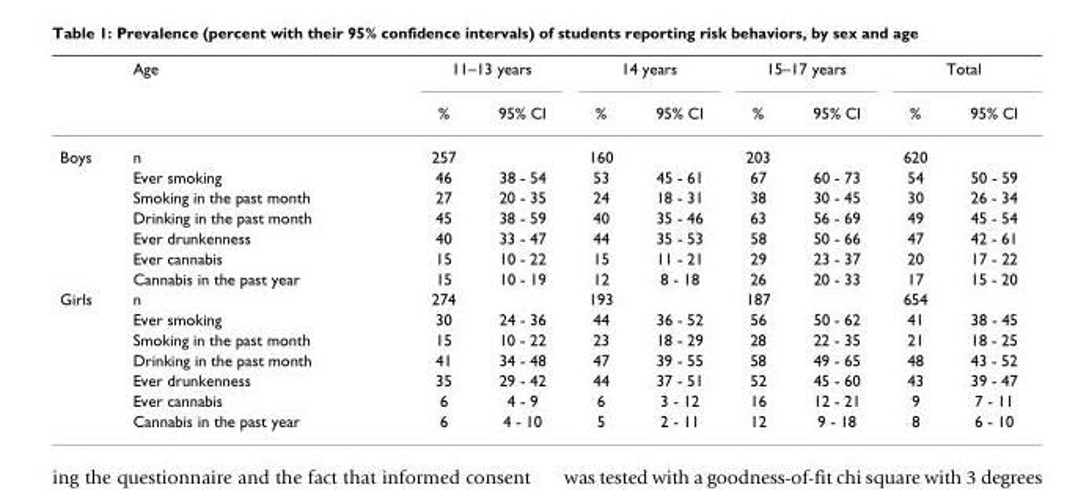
<table><thead><tr><td rowspan="2"></td><td rowspan="2">Age</td><td colspan="2">11–13 years</td><td colspan="2">14 years</td><td colspan="2">15–17 years</td><td colspan="2">Total</td></tr><tr><td>%</td><td>95% CI</td><td>%</td><td>95% CI</td><td>%</td><td>95% CI</td><td>%</td><td>95% CI</td></tr></thead><tbody><tr><td rowspan="7">Boys</td><td>n</td><td>257</td><td></td><td>160</td><td></td><td>203</td><td></td><td>620</td><td></td></tr><tr><td>Ever smoking</td><td>46</td><td>38 - 54</td><td>53</td><td>45 - 61</td><td>67</td><td>60 - 73</td><td>54</td><td>50 - 59</td></tr><tr><td>Smoking in the past month</td><td>27</td><td>20 - 35</td><td>24</td><td>18 - 31</td><td>38</td><td>30 - 45</td><td>30</td><td>26 - 34</td></tr><tr><td>Drinking in the past month</td><td>45</td><td>38 - 59</td><td>40</td><td>35 - 46</td><td>63</td><td>56 - 69</td><td>49</td><td>45 - 54</td></tr><tr><td>Ever drunkenness</td><td>40</td><td>33 - 47</td><td>44</td><td>35 - 53</td><td>58</td><td>50 - 66</td><td>47</td><td>42 - 61</td></tr><tr><td>Ever cannabis</td><td>15</td><td>10 - 22</td><td>15</td><td>11 - 21</td><td>29</td><td>23 - 37</td><td>20</td><td>17 - 22</td></tr><tr><td>Cannabis in the past year</td><td>15</td><td>10 - 19</td><td>12</td><td>8 - 18</td><td>26</td><td>20 - 33</td><td>17</td><td>15 - 20</td></tr><tr><td rowspan="7">Girls</td><td>n</td><td>274</td><td></td><td>193</td><td></td><td>187</td><td></td><td>654</td><td></td></tr><tr><td>Ever smoking</td><td>30</td><td>24 - 36</td><td>44</td><td>36 - 52</td><td>56</td><td>50 - 62</td><td>41</td><td>38 - 45</td></tr><tr><td>Smoking in the past month</td><td>15</td><td>10 - 22</td><td>23</td><td>18 - 29</td><td>28</td><td>22 - 35</td><td>21</td><td>18 - 25</td></tr><tr><td>Drinking in the past month</td><td>41</td><td>34 - 48</td><td>47</td><td>39 - 55</td><td>58</td><td>49 - 65</td><td>48</td><td>43 - 52</td></tr><tr><td>Ever drunkenness</td><td>35</td><td>29 - 42</td><td>44</td><td>37 - 51</td><td>52</td><td>45 - 60</td><td>43</td><td>39 - 47</td></tr><tr><td>Ever cannabis</td><td>6</td><td>4 - 9</td><td>6</td><td>3 - 12</td><td>16</td><td>12 - 21</td><td>9</td><td>7 - 11</td></tr><tr><td>Cannabis in the past year</td><td>6</td><td>4 - 10</td><td>5</td><td>2 - 11</td><td>12</td><td>9 - 18</td><td>8</td><td>6 - 10</td></tr></tbody></table>